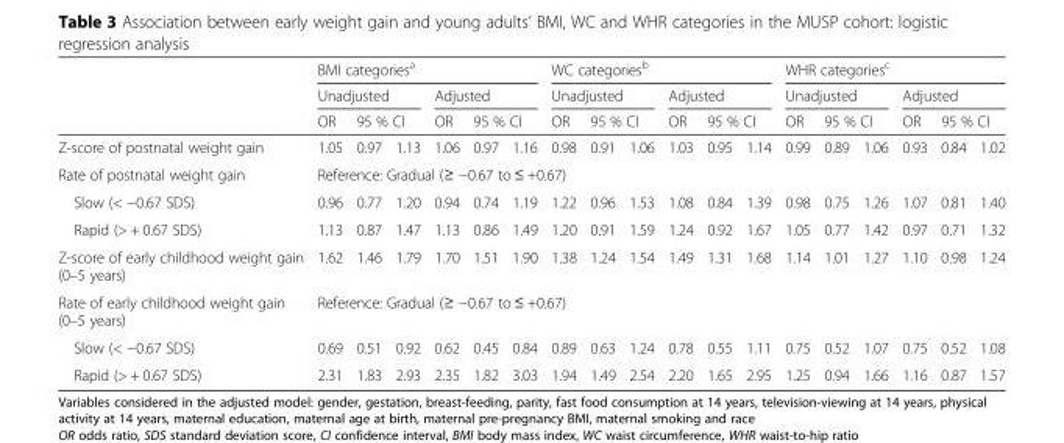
<table><thead><tr><td rowspan="4">Z-score of postnatal weight gain</td><td colspan="6">BMI categories<sup>a</sup></td><td colspan="6">WC categories<sup>b</sup></td><td colspan="6">WHR categories<sup>c</sup></td></tr><tr><td colspan="3">Unadjusted</td><td colspan="3">Adjusted</td><td colspan="3">Unadjusted</td><td colspan="3">Adjusted</td><td colspan="3">Unadjusted</td><td colspan="3">Adjusted</td></tr><tr><td rowspan="2">OR 1.05</td><td colspan="2">95 % CI</td><td rowspan="2">OR 1.06</td><td colspan="2">95 % CI</td><td rowspan="2">OR 0.98</td><td colspan="2">95 % CI</td><td rowspan="2">OR 1.03</td><td colspan="2">95 % CI</td><td rowspan="2">OR 0.99</td><td colspan="2">95 % CI</td><td rowspan="2">OR 0.93</td><td colspan="2">95 % CI</td></tr><tr><td>0.97</td><td>1.13</td><td>0.97</td><td>1.16</td><td>0.91</td><td>1.06</td><td>0.95</td><td>1.14</td><td>0.89</td><td>1.06</td><td>0.84</td><td>1.02</td></tr></thead><tbody><tr><td>Rate of postnatal weight gain</td><td colspan="18">Reference: Gradual (≥ −0.67 to ≤ +0.67)</td></tr><tr><td>Slow (&lt; −0.67 SDS)</td><td>0.96</td><td>0.77</td><td>1.20</td><td>0.94</td><td>0.74</td><td>1.19</td><td>1.22</td><td>0.96</td><td>1.53</td><td>1.08</td><td>0.84</td><td>1.39</td><td>0.98</td><td>0.75</td><td>1.26</td><td>1.07</td><td>0.81</td><td>1.40</td></tr><tr><td>Rapid (&gt; + 0.67 SDS)</td><td>1.13</td><td>0.87</td><td>1.47</td><td>1.13</td><td>0.86</td><td>1.49</td><td>1.20</td><td>0.91</td><td>1.59</td><td>1.24</td><td>0.92</td><td>1.67</td><td>1.05</td><td>0.77</td><td>1.42</td><td>0.97</td><td>0.71</td><td>1.32</td></tr><tr><td>Z-score of early childhood weight gain (0–5 years)</td><td>1.62</td><td>1.46</td><td>1.79</td><td>1.70</td><td>1.51</td><td>1.90</td><td>1.38</td><td>1.24</td><td>1.54</td><td>1.49</td><td>1.31</td><td>1.68</td><td>1.14</td><td>1.01</td><td>1.27</td><td>1.10</td><td>0.98</td><td>1.24</td></tr><tr><td>Rate of early childhood weight gain (0–5 years)</td><td colspan="18">Reference: Gradual (≥ −0.67 to ≤ +0.67)</td></tr><tr><td>Slow (&lt; −0.67 SDS)</td><td>0.69</td><td>0.51</td><td>0.92</td><td>0.62</td><td>0.45</td><td>0.84</td><td>0.89</td><td>0.63</td><td>1.24</td><td>0.78</td><td>0.55</td><td>1.11</td><td>0.75</td><td>0.52</td><td>1.07</td><td>0.75</td><td>0.52</td><td>1.08</td></tr><tr><td>Rapid (&gt; + 0.67 SDS)</td><td>2.31</td><td>1.83</td><td>2.93</td><td>2.35</td><td>1.82</td><td>3.03</td><td>1.94</td><td>1.49</td><td>2.54</td><td>2.20</td><td>1.65</td><td>2.95</td><td>1.25</td><td>0.94</td><td>1.66</td><td>1.16</td><td>0.87</td><td>1.57</td></tr></tbody></table>